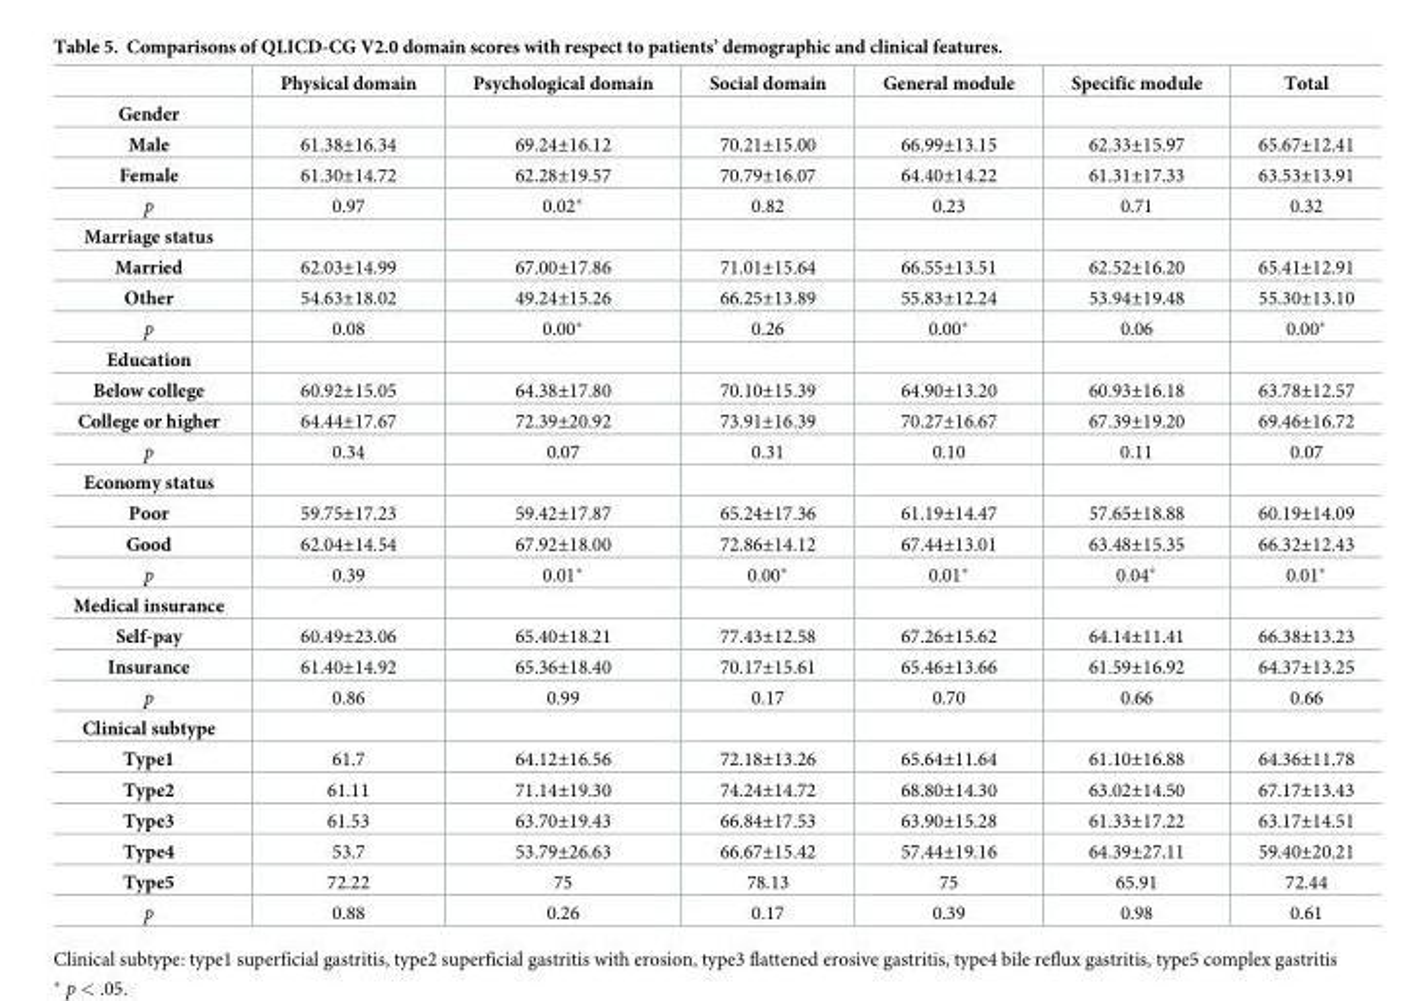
<table><thead><tr><td></td><td>Physical domain</td><td>Psychological domain</td><td>Social domain</td><td>General module</td><td>Specific module</td><td>Total</td></tr></thead><tbody><tr><td colspan="7">Gender</td></tr><tr><td>Male</td><td>61.38±16.34</td><td>69.24±16.12</td><td>70.21±15.00</td><td>66.99±13.15</td><td>62.33±15.97</td><td>65.67±12.41</td></tr><tr><td>Female</td><td>61.30±14.72</td><td>62.28±19.57</td><td>70.79±16.07</td><td>64.40±14.22</td><td>61.31±17.33</td><td>63.53±13.91</td></tr><tr><td>p</td><td>0.97</td><td>0.02*</td><td>0.82</td><td>0.23</td><td>0.71</td><td>0.32</td></tr><tr><td colspan="7">Marriage status</td></tr><tr><td>Married</td><td>62.03±14.99</td><td>67.00±17.86</td><td>71.01±15.64</td><td>66.55±13.51</td><td>62.52±16.20</td><td>65.41±12.91</td></tr><tr><td>Other</td><td>54.63±18.02</td><td>49.24±15.26</td><td>66.25±13.89</td><td>55.83±12.24</td><td>53.94±19.48</td><td>55.30±13.10</td></tr><tr><td>p</td><td>0.08</td><td>0.00*</td><td>0.26</td><td>0.00*</td><td>0.06</td><td>0.00*</td></tr><tr><td colspan="7">Education</td></tr><tr><td>Below college</td><td>60.92±15.05</td><td>64.38±17.80</td><td>70.10±15.39</td><td>64.90±13.20</td><td>60.93±16.18</td><td>63.78±12.57</td></tr><tr><td>College or higher</td><td>64.44±17.67</td><td>72.39±20.92</td><td>73.91±16.39</td><td>70.27±16.67</td><td>67.39±19.20</td><td>69.46±16.72</td></tr><tr><td>p</td><td>0.34</td><td>0.07</td><td>0.31</td><td>0.10</td><td>0.11</td><td>0.07</td></tr><tr><td colspan="7">Economy status</td></tr><tr><td>Poor</td><td>59.75±17.23</td><td>59.42±17.87</td><td>65.24±17.36</td><td>61.19±14.47</td><td>57.65±18.88</td><td>60.19±14.09</td></tr><tr><td>Good</td><td>62.04±14.54</td><td>67.92±18.00</td><td>72.86±14.12</td><td>67.44±13.01</td><td>63.48±15.35</td><td>66.32±12.43</td></tr><tr><td>p</td><td>0.39</td><td>0.01*</td><td>0.00*</td><td>0.01*</td><td>0.04*</td><td>0.01*</td></tr><tr><td colspan="7">Medical insurance</td></tr><tr><td>Self-pay</td><td>60.49±23.06</td><td>65.40±18.21</td><td>77.43±12.58</td><td>67.26±15.62</td><td>64.14±11.41</td><td>66.38±13.23</td></tr><tr><td>Insurance</td><td>61.40±14.92</td><td>65.36±18.40</td><td>70.17±15.61</td><td>65.46±13.66</td><td>61.59±16.92</td><td>64.37±13.25</td></tr><tr><td>p</td><td>0.86</td><td>0.99</td><td>0.17</td><td>0.70</td><td>0.66</td><td>0.66</td></tr><tr><td colspan="7">Clinical subtype</td></tr><tr><td>Type1</td><td>61.7</td><td>64.12±16.56</td><td>72.18±13.26</td><td>65.64±11.64</td><td>61.10±16.88</td><td>64.36±11.78</td></tr><tr><td>Type2</td><td>61.11</td><td>71.14±19.30</td><td>74.24±14.72</td><td>68.80±14.30</td><td>63.02±14.50</td><td>67.17±13.43</td></tr><tr><td>Type3</td><td>61.53</td><td>63.70±19.43</td><td>66.84±17.53</td><td>63.90±15.28</td><td>61.33±17.22</td><td>63.17±14.51</td></tr><tr><td>Type4</td><td>53.7</td><td>53.79±26.63</td><td>66.67±15.42</td><td>57.44±19.16</td><td>64.39±27.11</td><td>59.40±20.21</td></tr><tr><td>Type5</td><td>72.22</td><td>75</td><td>78.13</td><td>75</td><td>65.91</td><td>72.44</td></tr><tr><td>p</td><td>0.88</td><td>0.26</td><td>0.17</td><td>0.39</td><td>0.98</td><td>0.61</td></tr></tbody></table>